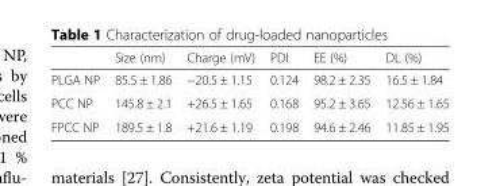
<table><thead><tr><td></td><td>Size (nm)</td><td>Charge (mV)</td><td>PDI</td><td>EE (%)</td><td>DL (%)</td></tr></thead><tbody><tr><td>PLGA NP</td><td>85.5 ± 1.86</td><td>−20.5 ± 1.15</td><td>0.124</td><td>98.2 ± 2.35</td><td>16.5 ± 1.84</td></tr><tr><td>PCC NP</td><td>145.8 ± 2.1</td><td>+26.5 ± 1.65</td><td>0.168</td><td>95.2 ± 3.65</td><td>12.56 ± 1.65</td></tr><tr><td>FPCC NP</td><td>189.5 ± 1.8</td><td>+21.6 ± 1.19</td><td>0.198</td><td>94.6 ± 2.46</td><td>11.85 ± 1.95</td></tr></tbody></table>